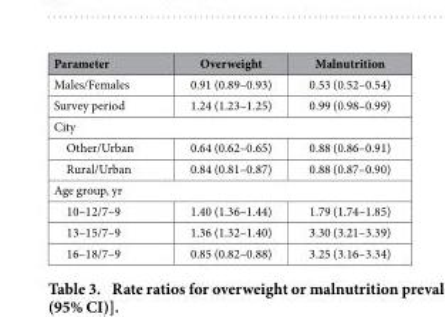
<table><thead><tr><td>Parameter</td><td>Overweight</td><td>Malnutrition</td></tr></thead><tbody><tr><td>Males/Females</td><td>0.91 (0.89–0.93)</td><td>0.53 (0.52–0.54)</td></tr><tr><td>Survey period</td><td>1.24 (1.23–1.25)</td><td>0.99 (0.98–0.99)</td></tr><tr><td colspan="3">City</td></tr><tr><td>Other/Urban</td><td>0.64 (0.62–0.65)</td><td>0.88 (0.86–0.91)</td></tr><tr><td>Rural/Urban</td><td>0.84 (0.81–0.87)</td><td>0.88 (0.87–0.90)</td></tr><tr><td colspan="3">Age group, yr</td></tr><tr><td>10–12/7–9</td><td>1.40 (1.36–1.44)</td><td>1.79 (1.74–1.85)</td></tr><tr><td>13–15/7–9</td><td>1.36 (1.32–1.40)</td><td>3.30 (3.21–3.39)</td></tr><tr><td>16–18/7–9</td><td>0.85 (0.82–0.88)</td><td>3.25 (3.16–3.34)</td></tr></tbody></table>